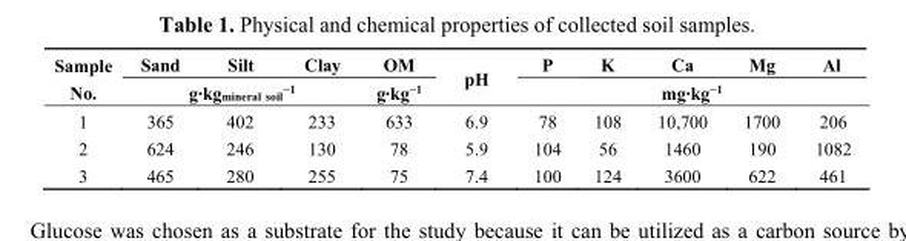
<table><thead><tr><td rowspan="2">Sample No.</td><td>Sand</td><td>Silt</td><td>Clay</td><td rowspan="2">OM g·kg−1</td><td rowspan="2">pH</td><td>P</td><td>K</td><td>Ca</td><td>Mg</td><td>Al</td></tr><tr><td colspan="3">g·kgmineral soil−1</td><td colspan="5">mg·kg−1</td></tr></thead><tbody><tr><td>1</td><td>365</td><td>402</td><td>233</td><td>633</td><td>6.9</td><td>78</td><td>108</td><td>10,700</td><td>1700</td><td>206</td></tr><tr><td>2</td><td>624</td><td>246</td><td>130</td><td>78</td><td>5.9</td><td>104</td><td>56</td><td>1460</td><td>190</td><td>1082</td></tr><tr><td>3</td><td>465</td><td>280</td><td>255</td><td>75</td><td>7.4</td><td>100</td><td>124</td><td>3600</td><td>622</td><td>461</td></tr></tbody></table>